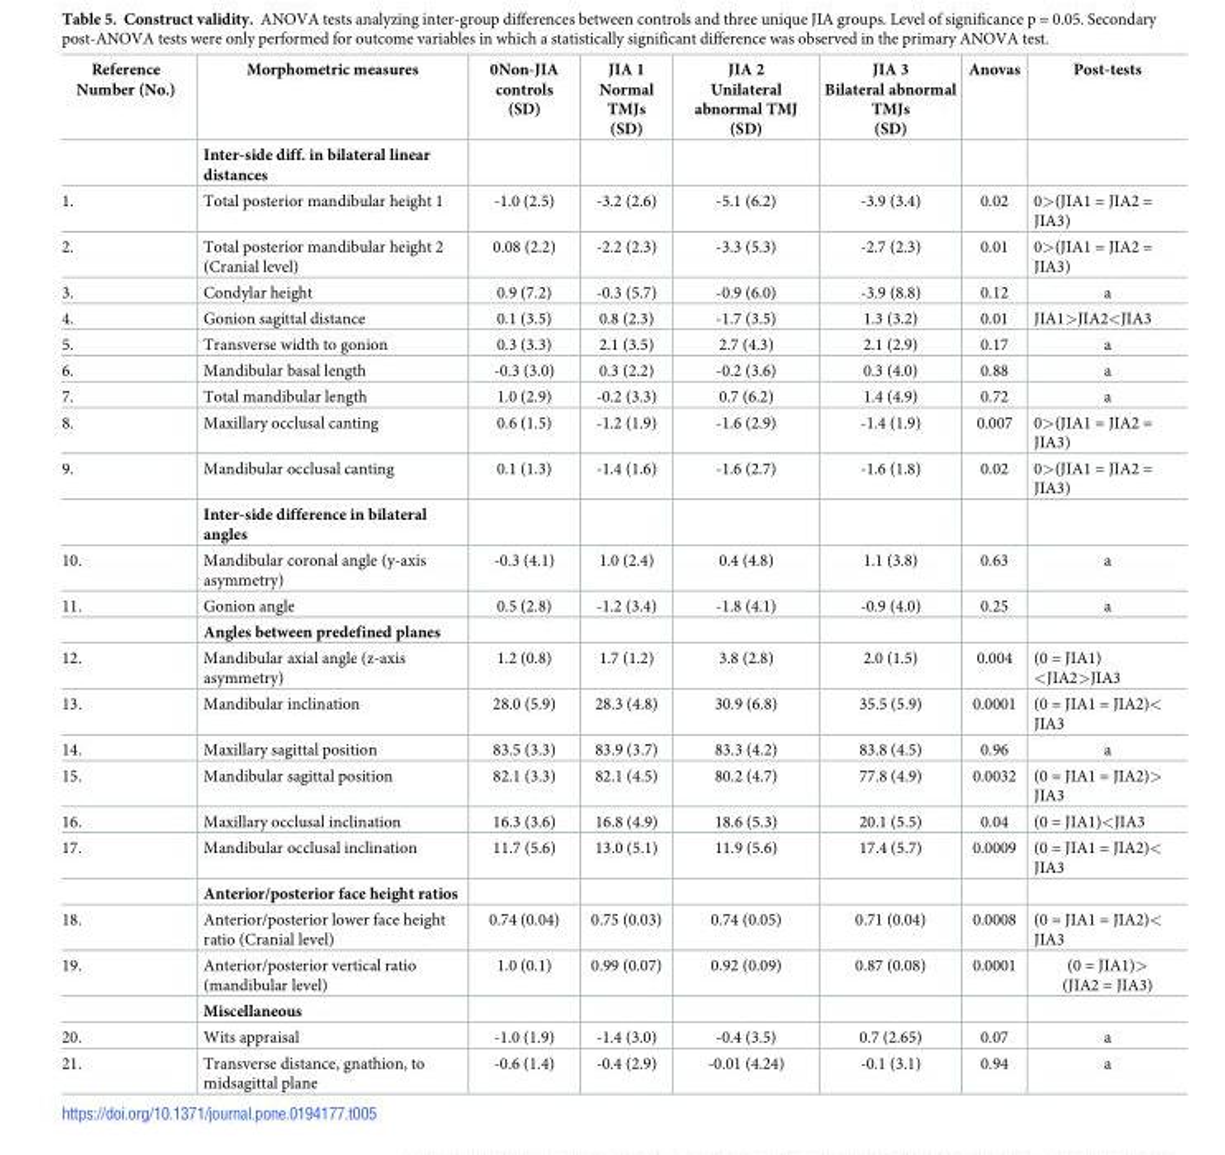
<table><thead><tr><td>Reference Number (No.)</td><td>Morphometric measures</td><td>0Non-JIA controls (SD)</td><td>JIA 1 Normal TMJs (SD)</td><td>JIA 2 Unilateral abnormal TMJ (SD)</td><td>JIA 3 Bilateral abnormal TMJs (SD)</td><td>Anovas</td><td>Post-tests</td></tr></thead><tbody><tr><td></td><td>Inter-side diff. in bilateral linear distances</td><td></td><td></td><td></td><td></td><td></td><td></td></tr><tr><td>1.</td><td>Total posterior mandibular height 1</td><td>-1.0 (2.5)</td><td>-3.2 (2.6)</td><td>-5.1 (6.2)</td><td>-3.9 (3.4)</td><td>0.02</td><td>0&gt;(JIA1 = JIA2 = JIA3)</td></tr><tr><td>2.</td><td>Total posterior mandibular height 2 (Cranial level)</td><td>0.08 (2.2)</td><td>-2.2 (2.3)</td><td>-3.3 (5.3)</td><td>-2.7 (2.3)</td><td>0.01</td><td>0&gt;(JIA1 = JIA2 = JIA3)</td></tr><tr><td>3.</td><td>Condylar height</td><td>0.9 (7.2)</td><td>-0.3 (5.7)</td><td>-0.9 (6.0)</td><td>-3.9 (8.8)</td><td>0.12</td><td>a</td></tr><tr><td>4.</td><td>Gonion sagittal distance</td><td>0.1 (3.5)</td><td>0.8 (2.3)</td><td>-1.7 (3.5)</td><td>1.3 (3.2)</td><td>0.01</td><td>JIA1&gt;JIA2&lt;JIA3</td></tr><tr><td>5.</td><td>Transverse width to gonion</td><td>0.3 (3.3)</td><td>2.1 (3.5)</td><td>2.7 (4.3)</td><td>2.1 (2.9)</td><td>0.17</td><td>a</td></tr><tr><td>6.</td><td>Mandibular basal length</td><td>-0.3 (3.0)</td><td>0.3 (2.2)</td><td>-0.2 (3.6)</td><td>0.3 (4.0)</td><td>0.88</td><td>a</td></tr><tr><td>7.</td><td>Total mandibular length</td><td>1.0 (2.9)</td><td>-0.2 (3.3)</td><td>0.7 (6.2)</td><td>1.4 (4.9)</td><td>0.72</td><td>a</td></tr><tr><td>8.</td><td>Maxillary occlusal canting</td><td>0.6 (1.5)</td><td>-1.2 (1.9)</td><td>-1.6 (2.9)</td><td>-1.4 (1.9)</td><td>0.007</td><td>0&gt;(JIA1 = JIA2 = JIA3)</td></tr><tr><td rowspan="2">9.</td><td>Mandibular occlusal canting</td><td>0.1 (1.3)</td><td>-1.4 (1.6)</td><td>-1.6 (2.7)</td><td>-1.6 (1.8)</td><td>0.02</td><td>0&gt;(JIA1 = JIA2 = JIA3)</td></tr><tr><td>Inter-side difference in bilateral angles</td><td></td><td></td><td></td><td></td><td></td><td></td></tr><tr><td>10.</td><td>Mandibular coronal angle (y-axis asymmetry)</td><td>-0.3 (4.1)</td><td>1.0 (2.4)</td><td>0.4 (4.8)</td><td>1.1 (3.8)</td><td>0.63</td><td>a</td></tr><tr><td rowspan="2">11.</td><td>Gonion angle</td><td>0.5 (2.8)</td><td>-1.2 (3.4)</td><td>-1.8 (4.1)</td><td>-0.9 (4.0)</td><td>0.25</td><td>a</td></tr><tr><td>Angles between predefined planes</td><td></td><td></td><td></td><td></td><td></td><td></td></tr><tr><td>12.</td><td>Mandibular axial angle (z-axis asymmetry)</td><td>1.2 (0.8)</td><td>1.7 (1.2)</td><td>3.8 (2.8)</td><td>2.0 (1.5)</td><td>0.004</td><td>(0 = JIA1) &lt;JIA2&gt;JIA3</td></tr><tr><td>13.</td><td>Mandibular inclination</td><td>28.0 (5.9)</td><td>28.3 (4.8)</td><td>30.9 (6.8)</td><td>35.5 (5.9)</td><td>0.0001</td><td>(0 = JIA1 = JIA2)&lt; JIA3</td></tr><tr><td>14.</td><td>Maxillary sagittal position</td><td>83.5 (3.3)</td><td>83.9 (3.7)</td><td>83.3 (4.2)</td><td>83.8 (4.5)</td><td>0.96</td><td>a</td></tr><tr><td>15.</td><td>Mandibular sagittal position</td><td>82.1 (3.3)</td><td>82.1 (4.5)</td><td>80.2 (4.7)</td><td>77.8 (4.9)</td><td>0.0032</td><td>(0 = JIA1 = JIA2)&gt; JIA3</td></tr><tr><td>16.</td><td>Maxillary occlusal inclination</td><td>16.3 (3.6)</td><td>16.8 (4.9)</td><td>18.6 (5.3)</td><td>20.1 (5.5)</td><td>0.04</td><td>(0 = JIA1)&lt;JIA3</td></tr><tr><td rowspan="2">17.</td><td>Mandibular occlusal inclination</td><td>11.7 (5.6)</td><td>13.0 (5.1)</td><td>11.9 (5.6)</td><td>17.4 (5.7)</td><td>0.0009</td><td>(0 = JIA1 = JIA2)&lt; JIA3</td></tr><tr><td>Anterior/posterior face height ratios</td><td></td><td></td><td></td><td></td><td></td><td></td></tr><tr><td>18.</td><td>Anterior/posterior lower face height ratio (Cranial level)</td><td>0.74 (0.04)</td><td>0.75 (0.03)</td><td>0.74 (0.05)</td><td>0.71 (0.04)</td><td>0.0008</td><td>(0 = JIA1 = JIA2)&lt; JIA3</td></tr><tr><td rowspan="2">19.</td><td>Anterior/posterior vertical ratio (mandibular level)</td><td>1.0 (0.1)</td><td>0.99 (0.07)</td><td>0.92 (0.09)</td><td>0.87 (0.08)</td><td>0.0001</td><td>(0 = JIA1)&gt; (JIA2 = JIA3)</td></tr><tr><td>Miscellaneous</td><td></td><td></td><td></td><td></td><td></td><td></td></tr><tr><td>20.</td><td>Wits appraisal</td><td>-1.0 (1.9)</td><td>-1.4 (3.0)</td><td>-0.4 (3.5)</td><td>0.7 (2.65)</td><td>0.07</td><td>a</td></tr><tr><td>21.</td><td>Transverse distance, gnathion, to midsagittal plane</td><td>-0.6 (1.4)</td><td>-0.4 (2.9)</td><td>-0.01 (4.24)</td><td>-0.1 (3.1)</td><td>0.94</td><td>a</td></tr></tbody></table>